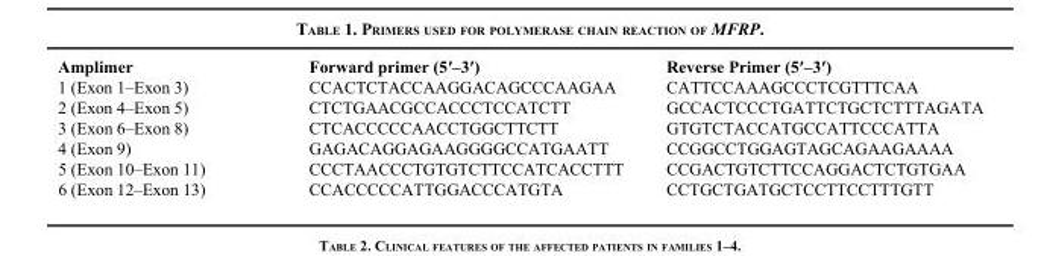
<table><thead><tr><td>Amplimer</td><td>Forward primer (5′–3′)</td><td>Reverse Primer (5′–3′)</td></tr></thead><tbody><tr><td>1 (Exon 1–Exon 3)</td><td>CCACTCTACCAAGGACAGCCCAAGAA</td><td>CATTCCAAAGCCCTCGTTTCAA</td></tr><tr><td>2 (Exon 4–Exon 5)</td><td>CTCTGAACGCCACCCTCCATCTT</td><td>GCCACTCCCTGATTCTGCTCTTTAGATA</td></tr><tr><td>3 (Exon 6–Exon 8)</td><td>CTCACCCCCAACCTGGCTTCTT</td><td>GTGTCTACCATGCCATTCCCATTA</td></tr><tr><td>4 (Exon 9)</td><td>GAGACAGGAGAAGGGGCCATGAATT</td><td>CCGGCCTGGAGTAGCAGAAGAAAA</td></tr><tr><td>5 (Exon 10–Exon 11)</td><td>CCCTAACCCTGTGTCTTCCATCACCTTT</td><td>CCGACTGTCTTCCAGGACTCTGTGAA</td></tr><tr><td>6 (Exon 12–Exon 13)</td><td>CCACCCCCATTGGACCCATGTA</td><td>CCTGCTGATGCTCCTTCCTTTGTT</td></tr></tbody></table>